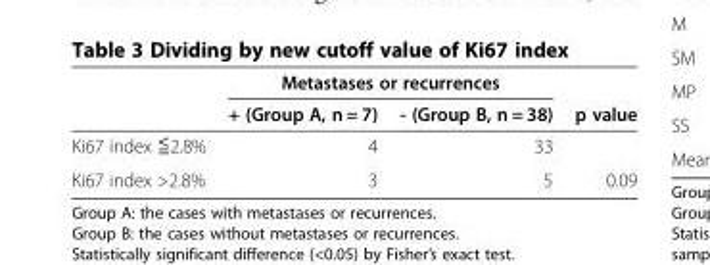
<table><thead><tr><td rowspan="2"></td><td colspan="2">Metastases or recurrences</td><td rowspan="2">p value</td></tr><tr><td>+ (Group A, n = 7)</td><td>- (Group B, n = 38)</td></tr></thead><tbody><tr><td>Ki67 index ≦2.8%</td><td>4</td><td>33</td><td></td></tr><tr><td>Ki67 index &gt;2.8%</td><td>3</td><td>5</td><td>0.09</td></tr></tbody></table>